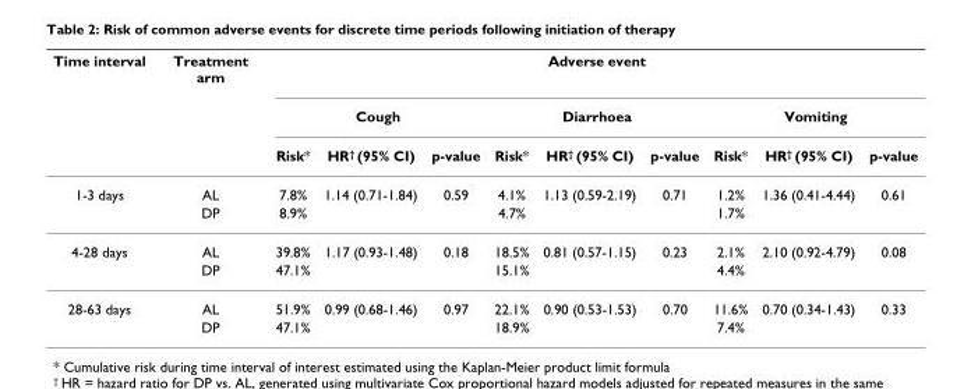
<table><thead><tr><td rowspan="3">Time interval</td><td rowspan="3">Treatment arm</td><td colspan="9">Adverse event</td></tr><tr><td colspan="3">Cough</td><td colspan="3">Diarrhoea</td><td colspan="3">Vomiting</td></tr><tr><td>Risk*</td><td>HR<sup>†</sup> (95% CI)</td><td>p-value</td><td>Risk*</td><td>HR<sup>†</sup> (95% CI)</td><td>p-value</td><td>Risk*</td><td>HR<sup>†</sup> (95% CI)</td><td>p-value</td></tr></thead><tbody><tr><td rowspan="2">1-3 days</td><td>AL</td><td>7.8%</td><td>1.14 (0.71-1.84)</td><td>0.59</td><td>4.1%</td><td>1.13 (0.59-2.19)</td><td>0.71</td><td>1.2%</td><td>1.36 (0.41-4.44)</td><td>0.61</td></tr><tr><td>DP</td><td>8.9%</td><td></td><td></td><td>4.7%</td><td></td><td></td><td>1.7%</td><td></td><td></td></tr><tr><td rowspan="2">4-28 days</td><td>AL</td><td>39.8%</td><td>1.17 (0.93-1.48)</td><td>0.18</td><td>18.5%</td><td>0.81 (0.57-1.15)</td><td>0.23</td><td>2.1%</td><td>2.10 (0.92-4.79)</td><td>0.08</td></tr><tr><td>DP</td><td>47.1%</td><td></td><td></td><td>15.1%</td><td></td><td></td><td>4.4%</td><td></td><td></td></tr><tr><td rowspan="2">28-63 days</td><td>AL</td><td>51.9%</td><td>0.99 (0.68-1.46)</td><td>0.97</td><td>22.1%</td><td>0.90 (0.53-1.53)</td><td>0.70</td><td>11.6%</td><td>0.70 (0.34-1.43)</td><td>0.33</td></tr><tr><td>DP</td><td>47.1%</td><td></td><td></td><td>18.9%</td><td></td><td></td><td>7.4%</td><td></td><td></td></tr></tbody></table>